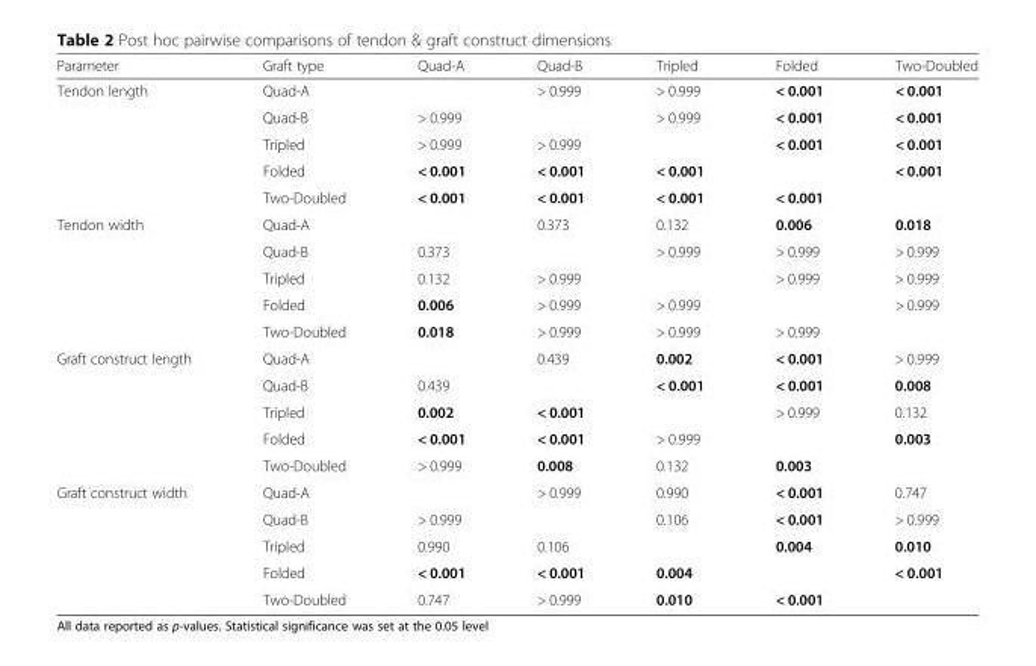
<table><thead><tr><td>Parameter</td><td>Graft type</td><td>Quad-A</td><td>Quad-B</td><td>Tripled</td><td>Folded</td><td>Two-Doubled</td></tr></thead><tbody><tr><td rowspan="5">Tendon length</td><td>Quad-A</td><td></td><td>&gt; 0.999</td><td>&gt; 0.999</td><td>&lt; 0.001</td><td>&lt; 0.001</td></tr><tr><td>Quad-B</td><td>&gt; 0.999</td><td></td><td>&gt; 0.999</td><td>&lt; 0.001</td><td>&lt; 0.001</td></tr><tr><td>Tripled</td><td>&gt; 0.999</td><td>&gt; 0.999</td><td></td><td>&lt; 0.001</td><td>&lt; 0.001</td></tr><tr><td>Folded</td><td>&lt; 0.001</td><td>&lt; 0.001</td><td>&lt; 0.001</td><td></td><td>&lt; 0.001</td></tr><tr><td>Two-Doubled</td><td>&lt; 0.001</td><td>&lt; 0.001</td><td>&lt; 0.001</td><td>&lt; 0.001</td><td></td></tr><tr><td rowspan="5">Tendon width</td><td>Quad-A</td><td></td><td>0.373</td><td>0.132</td><td>0.006</td><td>0.018</td></tr><tr><td>Quad-B</td><td>0.373</td><td></td><td>&gt; 0.999</td><td>&gt; 0.999</td><td>&gt; 0.999</td></tr><tr><td>Tripled</td><td>0.132</td><td>&gt; 0.999</td><td></td><td>&gt; 0.999</td><td>&gt; 0.999</td></tr><tr><td>Folded</td><td>0.006</td><td>&gt; 0.999</td><td>&gt; 0.999</td><td></td><td>&gt; 0.999</td></tr><tr><td>Two-Doubled</td><td>0.018</td><td>&gt; 0.999</td><td>&gt; 0.999</td><td>&gt; 0.999</td><td></td></tr><tr><td rowspan="5">Graft construct length</td><td>Quad-A</td><td></td><td>0.439</td><td>0.002</td><td>&lt; 0.001</td><td>&gt; 0.999</td></tr><tr><td>Quad-B</td><td>0.439</td><td></td><td>&lt; 0.001</td><td>&lt; 0.001</td><td>0.008</td></tr><tr><td>Tripled</td><td>0.002</td><td>&lt; 0.001</td><td></td><td>&gt; 0.999</td><td>0.132</td></tr><tr><td>Folded</td><td>&lt; 0.001</td><td>&lt; 0.001</td><td>&gt; 0.999</td><td></td><td>0.003</td></tr><tr><td>Two-Doubled</td><td>&gt; 0.999</td><td>0.008</td><td>0.132</td><td>0.003</td><td></td></tr><tr><td rowspan="5">Graft construct width</td><td>Quad-A</td><td></td><td>&gt; 0.999</td><td>0.990</td><td>&lt; 0.001</td><td>0.747</td></tr><tr><td>Quad-B</td><td>&gt; 0.999</td><td></td><td>0.106</td><td>&lt; 0.001</td><td>&gt; 0.999</td></tr><tr><td>Tripled</td><td>0.990</td><td>0.106</td><td></td><td>0.004</td><td>0.010</td></tr><tr><td>Folded</td><td>&lt; 0.001</td><td>&lt; 0.001</td><td>0.004</td><td></td><td>&lt; 0.001</td></tr><tr><td>Two-Doubled</td><td>0.747</td><td>&gt; 0.999</td><td>0.010</td><td>&lt; 0.001</td><td></td></tr></tbody></table>